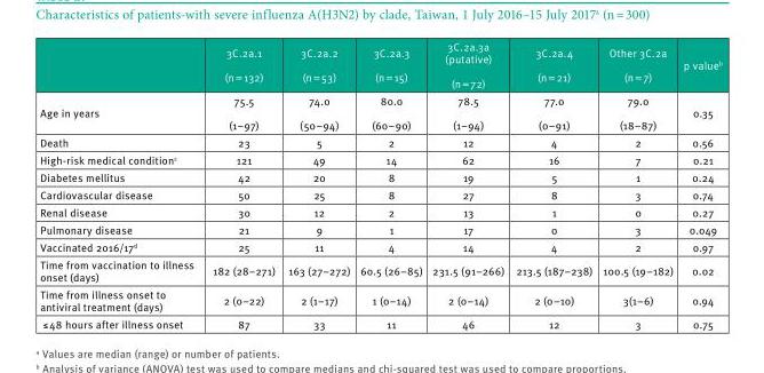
<table><thead><tr><td></td><td>3C.2a.1 (n = 132)</td><td>3C.2a.2 (n = 53)</td><td>3C.2a.3 (n = 15)</td><td>3C.2a.3a (putative) (n = 72)</td><td>3C.2a.4 (n = 21)</td><td>Other 3C.2a (n = 7)</td><td>p value<sup>b</sup></td></tr></thead><tbody><tr><td>Age in years</td><td>75.5 (1–97)</td><td>74.0 (50–94)</td><td>80.0 (60–90)</td><td>78.5 (1–94)</td><td>77.0 (0–91)</td><td>79.0 (18–87)</td><td>0.35</td></tr><tr><td>Death</td><td>23</td><td>5</td><td>2</td><td>12</td><td>4</td><td>2</td><td>0.56</td></tr><tr><td>High-risk medical condition<sup>c</sup></td><td>121</td><td>49</td><td>14</td><td>62</td><td>16</td><td>7</td><td>0.21</td></tr><tr><td>Diabetes mellitus</td><td>42</td><td>20</td><td>8</td><td>19</td><td>5</td><td>1</td><td>0.24</td></tr><tr><td>Cardiovascular disease</td><td>50</td><td>25</td><td>8</td><td>27</td><td>8</td><td>3</td><td>0.74</td></tr><tr><td>Renal disease</td><td>30</td><td>12</td><td>2</td><td>13</td><td>1</td><td>0</td><td>0.27</td></tr><tr><td>Pulmonary disease</td><td>21</td><td>9</td><td>1</td><td>17</td><td>0</td><td>3</td><td>0.049</td></tr><tr><td>Vaccinated 2016/17<sup>d</sup></td><td>25</td><td>11</td><td>4</td><td>14</td><td>4</td><td>2</td><td>0.97</td></tr><tr><td>Time from vaccination to illness onset (days)</td><td>182 (28–271)</td><td>163 (27–272)</td><td>60.5 (26–85)</td><td>231.5 (91–266)</td><td>213.5 (187–238)</td><td>100.5 (19–182)</td><td>0.02</td></tr><tr><td>Time from illness onset to antiviral treatment (days)</td><td>2 (0–22)</td><td>2 (1–17)</td><td>1 (0–14)</td><td>2 (0–14)</td><td>2 (0–10)</td><td>3(1–6)</td><td>0.94</td></tr><tr><td>≤ 48 hours after illness onset</td><td>87</td><td>33</td><td>11</td><td>46</td><td>12</td><td>3</td><td>0.75</td></tr></tbody></table>